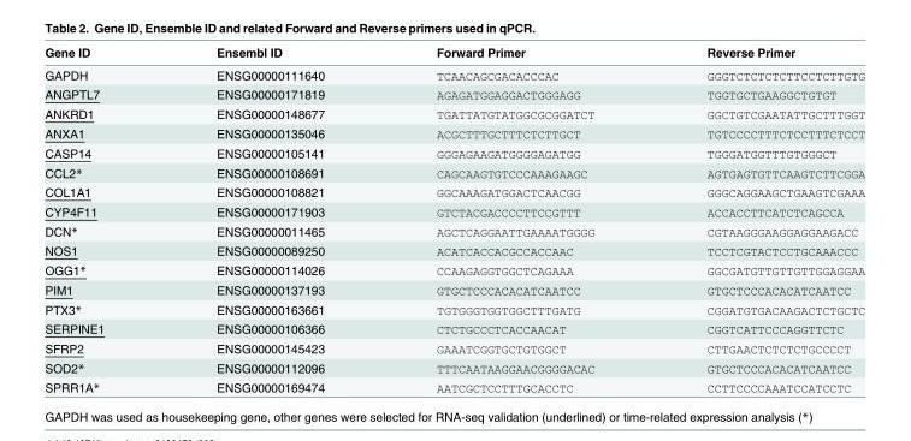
<table><thead><tr><td>Gene ID</td><td>Ensembl ID</td><td>Forward Primer</td><td>Reverse Primer</td></tr></thead><tbody><tr><td>GAPDH</td><td>ENSG00000111640</td><td>TCAACAGCGACACCCAC</td><td>GGGTCTCTCTCTTCCTCTTGTG</td></tr><tr><td>ANGPTL7</td><td>ENSG00000171819</td><td>AGAGATGGAGGACTGGGAGG</td><td>TGGTGCTGAAGGCTGTGT</td></tr><tr><td>ANKRD1</td><td>ENSG00000148677</td><td>TGATTATGTATGGCGCGGATCT</td><td>GGCTGTCGAATATTGCTTTGGT</td></tr><tr><td>ANXA1</td><td>ENSG00000135046</td><td>ACGCTTTGCTTTCTCTTGCT</td><td>TGTCCCCTTTCTCCTTTCTCCT</td></tr><tr><td>CASP14</td><td>ENSG00000105141</td><td>GGGAGAAGATGGGGAGATGG</td><td>TGGGATGGTTTGTGGGCT</td></tr><tr><td>CCL2*</td><td>ENSG00000108691</td><td>CAGCAAGTGTCCCAAAGAAGC</td><td>AGTGAGTGTTCAAGTCTTCGGA</td></tr><tr><td>COL1A1</td><td>ENSG00000108821</td><td>GGCAAAGATGGACTCAACGG</td><td>GGGCAGGAAGCTGAAGTCGAAA</td></tr><tr><td>CYP4F11</td><td>ENSG00000171903</td><td>GTCTACGACCCCTTCCGTTT</td><td>ACCACCTTCATCTCAGCCA</td></tr><tr><td>DCN*</td><td>ENSG00000011465</td><td>AGCTCAGGAATTGAAAATGGGG</td><td>CGTAAGGGAAGGAGGAAGACC</td></tr><tr><td>NOS1</td><td>ENSG00000089250</td><td>ACATCACCACGCCACCAAC</td><td>TCCTCGTACTCCTGCAAACCC</td></tr><tr><td>OGG1*</td><td>ENSG00000114026</td><td>CCAAGAGGTGGCTCAGAAA</td><td>GGCGATGTTGTTGTTGGAGGAA</td></tr><tr><td>PIM1</td><td>ENSG00000137193</td><td>GTGCTCCCACACATCAATCC</td><td>GTGCTCCCACACATCAATCC</td></tr><tr><td>PTX3*</td><td>ENSG00000163661</td><td>TGTGGGTGGTGGCTTTGATG</td><td>CGGATGTGACAAGACTCTGCTC</td></tr><tr><td>SERPINE1</td><td>ENSG00000106366</td><td>CTCTGCCCTCACCAACAT</td><td>CGGTCATTCCCAGGTTCTC</td></tr><tr><td>SFRP2</td><td>ENSG00000145423</td><td>GAAATCGGTGCTGTGGCT</td><td>CTTGAACTCTCTCTGCCCCT</td></tr><tr><td>SOD2*</td><td>ENSG00000112096</td><td>TTTCAATAAGGAACGGGGACAC</td><td>GTGCTCCCACACATCAATCC</td></tr><tr><td>SPRR1A*</td><td>ENSG00000169474</td><td>AATCGCTCCTTTGCACCTC</td><td>CCTTCCCCAAATCCATCCTC</td></tr></tbody></table>